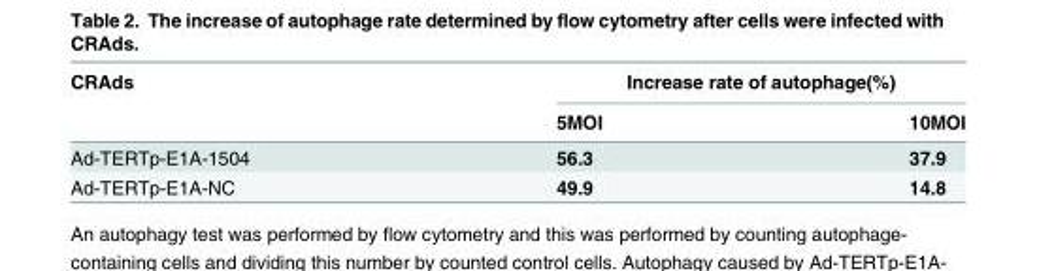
<table><thead><tr><td rowspan="2">CRAds</td><td colspan="2">Increase rate of autophage(%)</td></tr><tr><td>5MOI</td><td>10MOI</td></tr></thead><tbody><tr><td>Ad-TERTp-E1A-1504</td><td>56.3</td><td>37.9</td></tr><tr><td>Ad-TERTp-E1A-NC</td><td>49.9</td><td>14.8</td></tr></tbody></table>